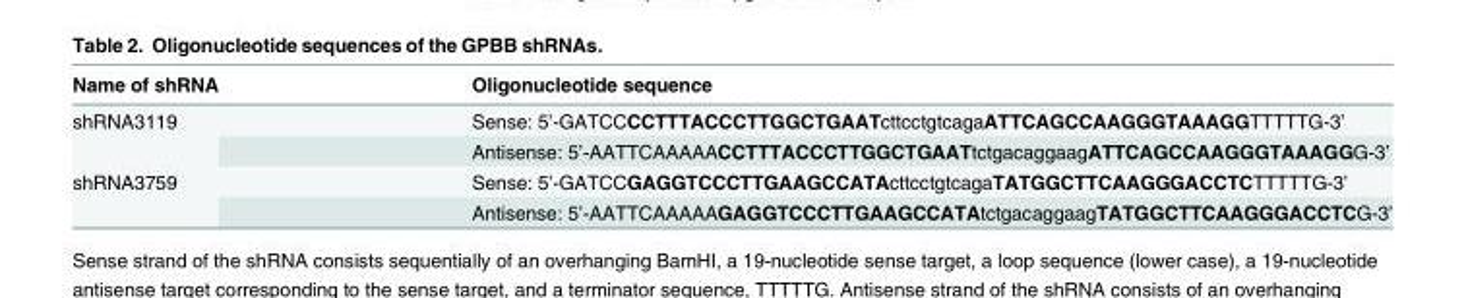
<table><thead><tr><td>Name of shRNA</td><td>Oligonucleotide sequence</td></tr></thead><tbody><tr><td rowspan="2">shRNA3119</td><td>Sense: 5’-GATCCCCTTTACCCTTGGCTGAATcttcctgtcagaATTCAGCCAAGGGTAAAGGTTTTTG-3’</td></tr><tr><td>Antisense: 5’-AATTCAAAAACCTTTACCCTTGGCTGAATtctgacaggaagATTCAGCCAAGGGTAAAGGG-3’</td></tr><tr><td rowspan="2">shRNA3759</td><td>Sense: 5’-GATCCGAGGTCCCTTGAAGCCATActtcctgtcagaTATGGCTTCAAGGGACCTCTTTTTG-3’</td></tr><tr><td>Antisense: 5’-AATTCAAAAAGAGGTCCCTTGAAGCCATAtctgacaggaagTATGGCTTCAAGGGACCTCG-3’</td></tr></tbody></table>